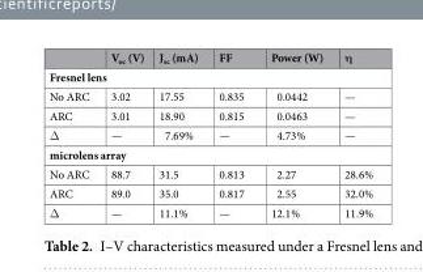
<table><thead><tr><td></td><td>V<sub>oc</sub> (V)</td><td>J<sub>sc</sub> (mA)</td><td>FF</td><td>Power (W)</td><td>η</td></tr></thead><tbody><tr><td colspan="6">Fresnel lens</td></tr><tr><td>No ARC</td><td>3.02</td><td>17.55</td><td>0.835</td><td>0.0442</td><td>—</td></tr><tr><td>ARC</td><td>3.01</td><td>18.90</td><td>0.815</td><td>0.0463</td><td>—</td></tr><tr><td>Δ</td><td>—</td><td>7.69%</td><td>—</td><td>4.73%</td><td>—</td></tr><tr><td colspan="6">microlens array</td></tr><tr><td>No ARC</td><td>88.7</td><td>31.5</td><td>0.813</td><td>2.27</td><td>28.6%</td></tr><tr><td>ARC</td><td>89.0</td><td>35.0</td><td>0.817</td><td>2.55</td><td>32.0%</td></tr><tr><td>Δ</td><td>—</td><td>11.1%</td><td>—</td><td>12.1%</td><td>11.9%</td></tr></tbody></table>